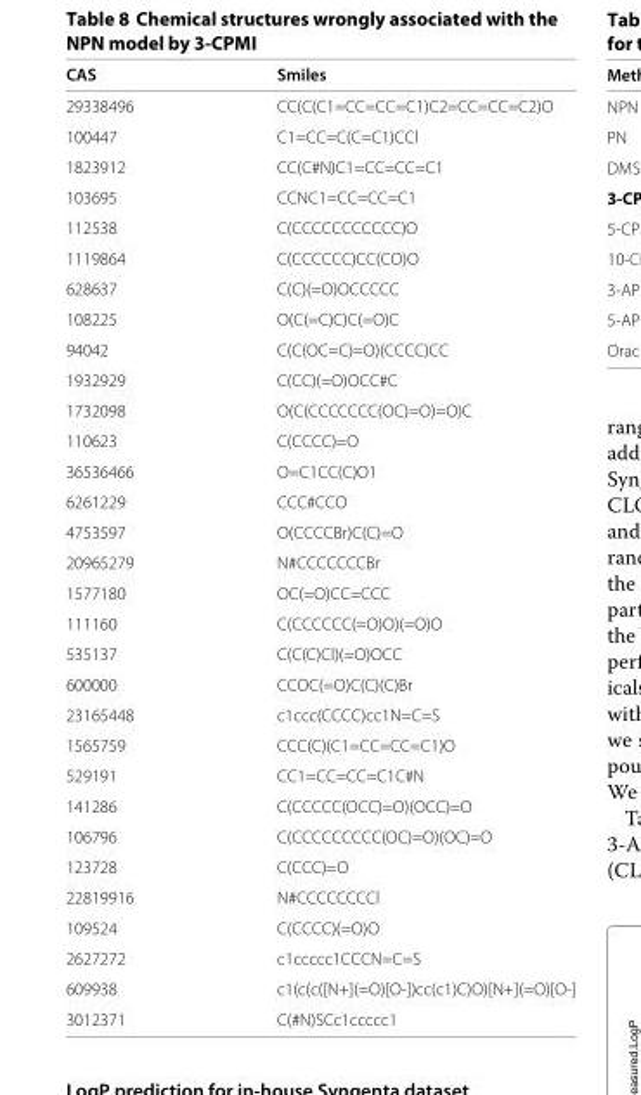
<table><thead><tr><td>CAS</td><td>Smiles</td></tr></thead><tbody><tr><td>29338496</td><td>CC(C(C1=CC=CC=C1)C2=CC=CC=C2)O</td></tr><tr><td>100447</td><td>C1=CC=C(C=C1)CCl</td></tr><tr><td>1823912</td><td>CC(C#N)C1=CC=CC=C1</td></tr><tr><td>103695</td><td>CCNC1=CC=CC=C1</td></tr><tr><td>112538</td><td>C(CCCCCCCCCCC)O</td></tr><tr><td>1119864</td><td>C(CCCCCC)CC(CO)O</td></tr><tr><td>628637</td><td>C(C)(=O)OCCCCC</td></tr><tr><td>108225</td><td>O(C(=C)C)C(=O)C</td></tr><tr><td>94042</td><td>C(C(OC=C)=O)(CCCC)CC</td></tr><tr><td>1932929</td><td>C(CC)(=O)OCC#C</td></tr><tr><td>1732098</td><td>O(C(CCCCCCC(OC)=O)=O)C</td></tr><tr><td>110623</td><td>C(CCCC)=O</td></tr><tr><td>36536466</td><td>O=C1CC(C)O1</td></tr><tr><td>6261229</td><td>CCC#CCO</td></tr><tr><td>4753597</td><td>O(CCCCBr)C(C)=O</td></tr><tr><td>20965279</td><td>N#CCCCCCCBr</td></tr><tr><td>1577180</td><td>OC(=O)CC=CCC</td></tr><tr><td>111160</td><td>C(CCCCCC(=O)O)(=O)O</td></tr><tr><td>535137</td><td>C(C(C)Cl)(=O)OCC</td></tr><tr><td>600000</td><td>CCOC(=O)C(C)(C)Br</td></tr><tr><td>23165448</td><td>c1ccc(CCCC)cc1N=C=S</td></tr><tr><td>1565759</td><td>CCC(C)(C1=CC=CC=C1)O</td></tr><tr><td>529191</td><td>CC1=CC=CC=C1C#N</td></tr><tr><td>141286</td><td>C(CCCCC(OCC)=O)(OCC)=O</td></tr><tr><td>106796</td><td>C(CCCCCCCCC(OC)=O)(OC)=O</td></tr><tr><td>123728</td><td>C(CCC)=O</td></tr><tr><td>22819916</td><td>N#CCCCCCCCl</td></tr><tr><td>109524</td><td>C(CCCC)(=O)O</td></tr><tr><td>2627272</td><td>c1ccccc1CCCN=C=S</td></tr><tr><td>609938</td><td>c1(c(c([N+](=O)[O-])cc(c1)C)O)[N+](=O)[O-]</td></tr><tr><td>3012371</td><td>C(#N)SCc1ccccc1</td></tr></tbody></table>